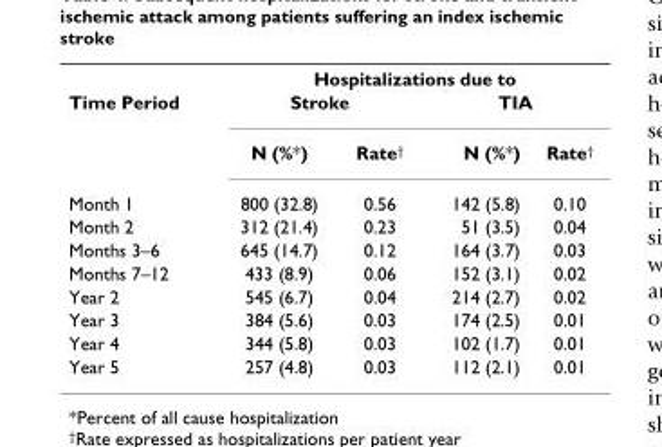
<table><thead><tr><td rowspan="3">Time Period</td><td colspan="4">Hospitalizations due to</td></tr><tr><td colspan="2">Stroke</td><td colspan="2">TIA</td></tr><tr><td>N (%*)</td><td>Rate†</td><td>N (%*)</td><td>Rate†</td></tr></thead><tbody><tr><td>Month 1</td><td>800 (32.8)</td><td>0.56</td><td>142 (5.8)</td><td>0.10</td></tr><tr><td>Month 2</td><td>312 (21.4)</td><td>0.23</td><td>51 (3.5)</td><td>0.04</td></tr><tr><td>Months 3–6</td><td>645 (14.7)</td><td>0.12</td><td>164 (3.7)</td><td>0.03</td></tr><tr><td>Months 7–12</td><td>433 (8.9)</td><td>0.06</td><td>152 (3.1)</td><td>0.02</td></tr><tr><td>Year 2</td><td>545 (6.7)</td><td>0.04</td><td>214 (2.7)</td><td>0.02</td></tr><tr><td>Year 3</td><td>384 (5.6)</td><td>0.03</td><td>174 (2.5)</td><td>0.01</td></tr><tr><td>Year 4</td><td>344 (5.8)</td><td>0.03</td><td>102 (1.7)</td><td>0.01</td></tr><tr><td>Year 5</td><td>257 (4.8)</td><td>0.03</td><td>112 (2.1)</td><td>0.01</td></tr></tbody></table>